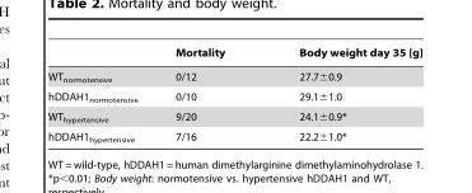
<table><thead><tr><td></td><td>Mortality</td><td>Body weight day 35 [g]</td></tr></thead><tbody><tr><td>WT<sub>normotensive</sub></td><td>0/12</td><td>27.7±0.9</td></tr><tr><td>hDDAH1<sub>normotensive</sub></td><td>0/10</td><td>29.1±1.0</td></tr><tr><td>WT<sub>hypertensive</sub></td><td>9/20</td><td>24.1±0.9*</td></tr><tr><td>hDDAH1<sub>hypertensive</sub></td><td>7/16</td><td>22.2±1.0*</td></tr></tbody></table>